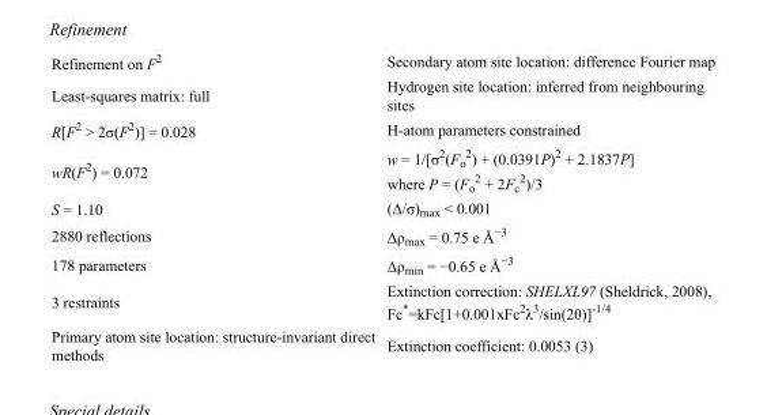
<table><tbody><tr><td>Refinement on F<sup>2</sup></td><td>Secondary atom site location: difference Fourier map</td></tr><tr><td>Least-squares matrix: full</td><td>Hydrogen site location: inferred from neighbouring sites</td></tr><tr><td>R[F<sup>2</sup> &gt; 2σ(F<sup>2</sup>)] = 0.028</td><td>H-atom parameters constrained</td></tr><tr><td>wR(F<sup>2</sup>) = 0.072</td><td>w = 1/[σ<sup>2</sup>(F<sub>o</sub> <sup>2</sup>) + (0.0391P)<sup>2</sup> + 2.1837P] where P = (F<sub>o</sub> <sup>2</sup> + 2F<sub>c</sub> <sup>2</sup>)/3</td></tr><tr><td>S = 1.10</td><td>(Δ/σ)<sub>max</sub> &lt; 0.001</td></tr><tr><td>2880 reflections</td><td>Δρ<sub>max</sub> = 0.75 e Å<sup>−3</sup></td></tr><tr><td>178 parameters</td><td>Δρ<sub>min</sub> = −0.65 e Å<sup>−3</sup></td></tr><tr><td>3 restraints</td><td>Extinction correction: SHELXL97 (Sheldrick, 2008), Fc*=kFc[1+0.001xFc<sup>2</sup>λ<sup>3</sup>/sin(2θ)]<sup>-1/4</sup></td></tr><tr><td>Primary atom site location: structure-invariant direct methods</td><td>Extinction coefficient: 0.0053 (3)</td></tr></tbody></table>